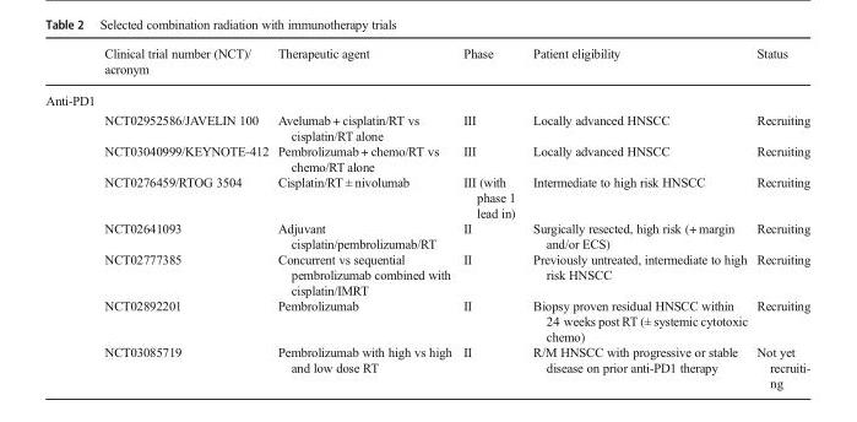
<table><thead><tr><td></td><td>Clinical trial number (NCT)/ acronym</td><td>Therapeutic agent</td><td>Phase</td><td>Patient eligibility</td><td>Status</td></tr></thead><tbody><tr><td colspan="6">Anti-PD1</td></tr><tr><td></td><td>NCT02952586/JAVELIN 100</td><td>Avelumab + cisplatin/RT vs cisplatin/RT alone</td><td>III</td><td>Locally advanced HNSCC</td><td>Recruiting</td></tr><tr><td></td><td>NCT03040999/KEYNOTE-412</td><td>Pembrolizumab + chemo/RT vs chemo/RT alone</td><td>III</td><td>Locally advanced HNSCC</td><td>Recruiting</td></tr><tr><td></td><td>NCT0276459/RTOG 3504</td><td>Cisplatin/RT ± nivolumab</td><td>III (with phase 1 lead in)</td><td>Intermediate to high risk HNSCC</td><td>Recruiting</td></tr><tr><td></td><td>NCT02641093</td><td>Adjuvant cisplatin/pembrolizumab/RT</td><td>II</td><td>Surgically resected, high risk (+ margin and/or ECS)</td><td>Recruiting</td></tr><tr><td></td><td>NCT02777385</td><td>Concurrent vs sequential pembrolizumab combined with cisplatin/IMRT</td><td>II</td><td>Previously untreated, intermediate to high risk HNSCC</td><td>Recruiting</td></tr><tr><td></td><td>NCT02892201</td><td>Pembrolizumab</td><td>II</td><td>Biopsy proven residual HNSCC within 24 weeks post RT (± systemic cytotoxic chemo)</td><td>Recruiting</td></tr><tr><td></td><td>NCT03085719</td><td>Pembrolizumab with high vs high and low dose RT</td><td>II</td><td>R/M HNSCC with progressive or stable disease on prior anti-PD1 therapy</td><td>Not yet recruiti-</td></tr></tbody></table>